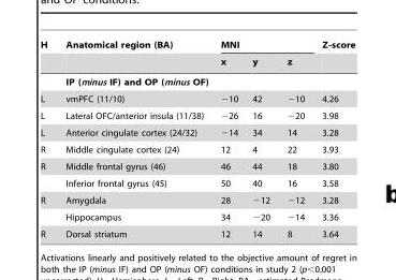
<table><thead><tr><td rowspan="2">H</td><td rowspan="2">Anatomical region (BA)</td><td colspan="3">MNI</td><td rowspan="2">Z-score</td></tr><tr><td>x</td><td>y</td><td>z</td></tr></thead><tbody><tr><td></td><td>IP (minus IF) and OP (minus OF)</td><td></td><td></td><td></td><td></td></tr><tr><td>L</td><td>vmPFC (11/10)</td><td>−10</td><td>42</td><td>−10</td><td>4.26</td></tr><tr><td>L</td><td>Lateral OFC/anterior insula (11/38)</td><td>−26</td><td>16</td><td>−20</td><td>3.98</td></tr><tr><td>L</td><td>Anterior cingulate cortex (24/32)</td><td>−14</td><td>34</td><td>14</td><td>3.28</td></tr><tr><td>R</td><td>Middle cingulate cortex (24)</td><td>12</td><td>4</td><td>22</td><td>3.93</td></tr><tr><td rowspan="2">R</td><td>Middle frontal gyrus (46)</td><td>46</td><td>44</td><td>18</td><td>3.80</td></tr><tr><td>Inferior frontal gyrus (45)</td><td>50</td><td>40</td><td>16</td><td>3.58</td></tr><tr><td rowspan="2">R</td><td>Amygdala</td><td>28</td><td>−12</td><td>−12</td><td>3.28</td></tr><tr><td>Hippocampus</td><td>34</td><td>−20</td><td>−14</td><td>3.36</td></tr><tr><td>R</td><td>Dorsal striatum</td><td>12</td><td>14</td><td>8</td><td>3.64</td></tr></tbody></table>